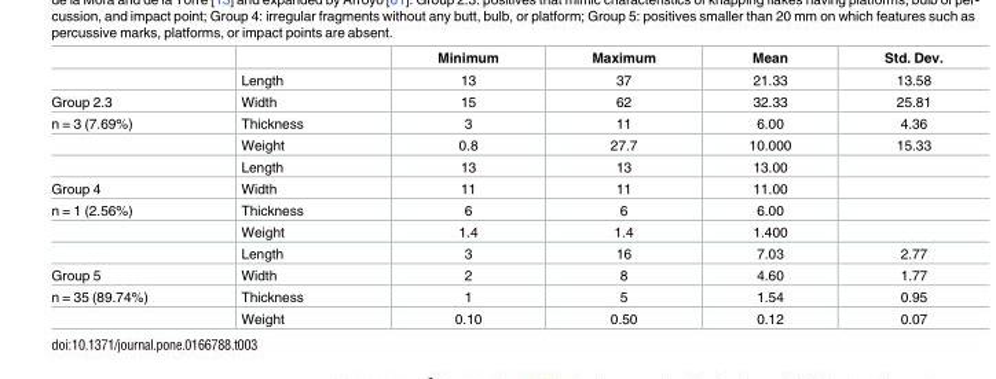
<table><thead><tr><td></td><td></td><td>Minimum</td><td>Maximum</td><td>Mean</td><td>Std. Dev.</td></tr></thead><tbody><tr><td></td><td>Length</td><td>13</td><td>37</td><td>21.33</td><td>13.58</td></tr><tr><td>Group 2.3</td><td>Width</td><td>15</td><td>62</td><td>32.33</td><td>25.81</td></tr><tr><td rowspan="3">n = 3 (7.69%)</td><td>Thickness</td><td>3</td><td>11</td><td>6.00</td><td>4.36</td></tr><tr><td>Weight</td><td>0.8</td><td>27.7</td><td>10.000</td><td>15.33</td></tr><tr><td>Length</td><td>13</td><td>13</td><td>13.00</td><td></td></tr><tr><td>Group 4</td><td>Width</td><td>11</td><td>11</td><td>11.00</td><td></td></tr><tr><td rowspan="3">n = 1 (2.56%)</td><td>Thickness</td><td>6</td><td>6</td><td>6.00</td><td></td></tr><tr><td>Weight</td><td>1.4</td><td>1.4</td><td>1.400</td><td></td></tr><tr><td>Length</td><td>3</td><td>16</td><td>7.03</td><td>2.77</td></tr><tr><td>Group 5</td><td>Width</td><td>2</td><td>8</td><td>4.60</td><td>1.77</td></tr><tr><td rowspan="2">n = 35 (89.74%)</td><td>Thickness</td><td>1</td><td>5</td><td>1.54</td><td>0.95</td></tr><tr><td>Weight</td><td>0.10</td><td>0.50</td><td>0.12</td><td>0.07</td></tr></tbody></table>